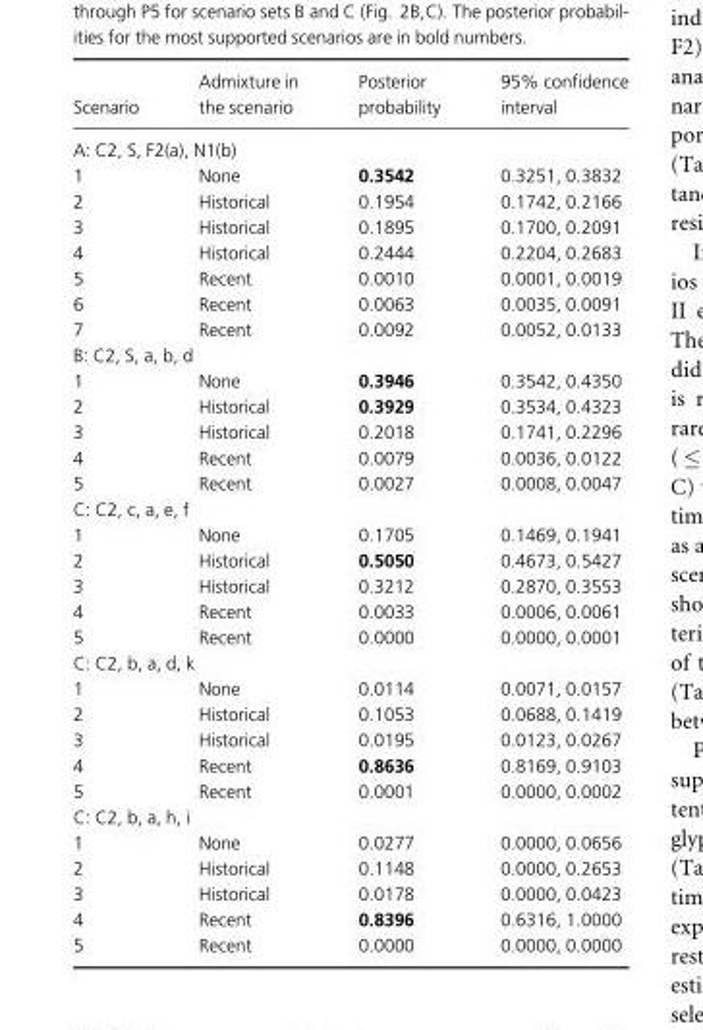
<table><thead><tr><td>Scenario</td><td>Admixture in the scenario</td><td>Posterior probability</td><td>95% confidence interval</td></tr></thead><tbody><tr><td colspan="4">A: C2, S, F2(a), N1(b)</td></tr><tr><td>1</td><td>None</td><td>0.3542</td><td>0.3251, 0.3832</td></tr><tr><td>2</td><td>Historical</td><td>0.1954</td><td>0.1742, 0.2166</td></tr><tr><td>3</td><td>Historical</td><td>0.1895</td><td>0.1700, 0.2091</td></tr><tr><td>4</td><td>Historical</td><td>0.2444</td><td>0.2204, 0.2683</td></tr><tr><td>5</td><td>Recent</td><td>0.0010</td><td>0.0001, 0.0019</td></tr><tr><td>6</td><td>Recent</td><td>0.0063</td><td>0.0035, 0.0091</td></tr><tr><td>7</td><td>Recent</td><td>0.0092</td><td>0.0052, 0.0133</td></tr><tr><td colspan="4">B: C2, S, a, b, d</td></tr><tr><td>1</td><td>None</td><td>0.3946</td><td>0.3542, 0.4350</td></tr><tr><td>2</td><td>Historical</td><td>0.3929</td><td>0.3534, 0.4323</td></tr><tr><td>3</td><td>Historical</td><td>0.2018</td><td>0.1741, 0.2296</td></tr><tr><td>4</td><td>Recent</td><td>0.0079</td><td>0.0036, 0.0122</td></tr><tr><td>5</td><td>Recent</td><td>0.0027</td><td>0.0008, 0.0047</td></tr><tr><td colspan="4">C: C2, c, a, e, f</td></tr><tr><td>1</td><td>None</td><td>0.1705</td><td>0.1469, 0.1941</td></tr><tr><td>2</td><td>Historical</td><td>0.5050</td><td>0.4673, 0.5427</td></tr><tr><td>3</td><td>Historical</td><td>0.3212</td><td>0.2870, 0.3553</td></tr><tr><td>4</td><td>Recent</td><td>0.0033</td><td>0.0006, 0.0061</td></tr><tr><td>5</td><td>Recent</td><td>0.0000</td><td>0.0000, 0.0001</td></tr><tr><td colspan="4">C: C2, b, a, d, k</td></tr><tr><td>1</td><td>None</td><td>0.0114</td><td>0.0071, 0.0157</td></tr><tr><td>2</td><td>Historical</td><td>0.1053</td><td>0.0688, 0.1419</td></tr><tr><td>3</td><td>Historical</td><td>0.0195</td><td>0.0123, 0.0267</td></tr><tr><td>4</td><td>Recent</td><td>0.8636</td><td>0.8169, 0.9103</td></tr><tr><td>5</td><td>Recent</td><td>0.0001</td><td>0.0000, 0.0002</td></tr><tr><td colspan="4">C: C2, b, a, h, i</td></tr><tr><td>1</td><td>None</td><td>0.0277</td><td>0.0000, 0.0656</td></tr><tr><td>2</td><td>Historical</td><td>0.1148</td><td>0.0000, 0.2653</td></tr><tr><td>3</td><td>Historical</td><td>0.0178</td><td>0.0000, 0.0423</td></tr><tr><td>4</td><td>Recent</td><td>0.8396</td><td>0.6316, 1.0000</td></tr><tr><td>5</td><td>Recent</td><td>0.0000</td><td>0.0000, 0.0000</td></tr></tbody></table>